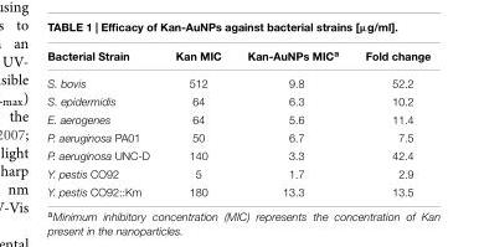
<table><thead><tr><td>Bacterial Strain</td><td>Kan MIC</td><td>Kan-AuNPs MIC<sup>a</sup></td><td>Fold change</td></tr></thead><tbody><tr><td>S. bovis</td><td>512</td><td>9.8</td><td>52.2</td></tr><tr><td>S. epidermidis</td><td>64</td><td>6.3</td><td>10.2</td></tr><tr><td>E. aerogenes</td><td>64</td><td>5.6</td><td>11.4</td></tr><tr><td>P. aeruginosa PA01</td><td>50</td><td>6.7</td><td>7.5</td></tr><tr><td>P. aeruginosa UNC-D</td><td>140</td><td>3.3</td><td>42.4</td></tr><tr><td>Y. pestis CO92</td><td>5</td><td>1.7</td><td>2.9</td></tr><tr><td>Y. pestis CO92::Km</td><td>180</td><td>13.3</td><td>13.5</td></tr></tbody></table>